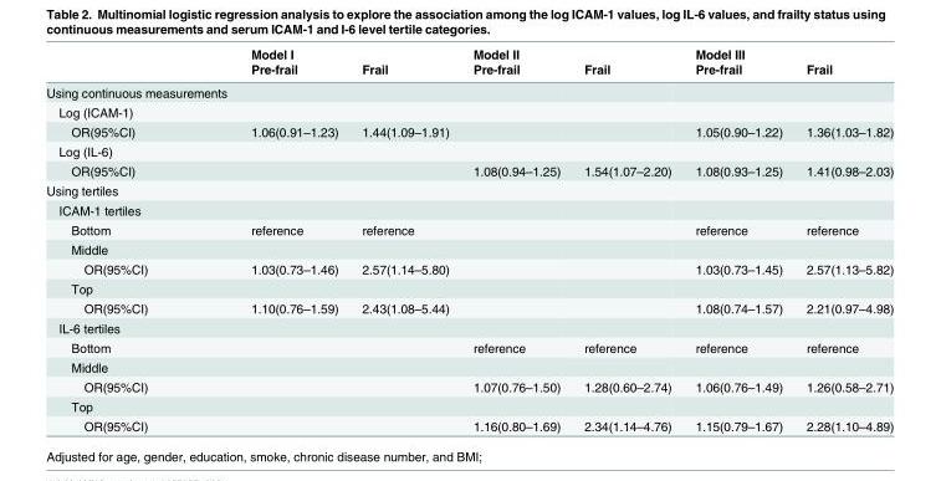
<table><thead><tr><td rowspan="2"></td><td rowspan="2">Model I Pre-frail</td><td rowspan="2">Frail</td><td rowspan="2">Model II Pre-frail</td><td rowspan="2">Frail</td><td rowspan="2">Model III Pre-frail</td><td rowspan="2">Frail</td></tr><tr></tr></thead><tbody><tr><td colspan="7">Using continuous measurements</td></tr><tr><td colspan="7">Log (ICAM-1)</td></tr><tr><td>OR(95%CI)</td><td>1.06(0.91–1.23)</td><td>1.44(1.09–1.91)</td><td></td><td></td><td>1.05(0.90–1.22)</td><td>1.36(1.03–1.82)</td></tr><tr><td colspan="7">Log (IL-6)</td></tr><tr><td>OR(95%CI)</td><td></td><td></td><td>1.08(0.94–1.25)</td><td>1.54(1.07–2.20)</td><td>1.08(0.93–1.25)</td><td>1.41(0.98–2.03)</td></tr><tr><td colspan="7">Using tertiles</td></tr><tr><td colspan="7">ICAM-1 tertiles</td></tr><tr><td>Bottom</td><td>reference</td><td>reference</td><td></td><td></td><td>reference</td><td>reference</td></tr><tr><td colspan="7">Middle</td></tr><tr><td>OR(95%CI)</td><td>1.03(0.73–1.46)</td><td>2.57(1.14–5.80)</td><td></td><td></td><td>1.03(0.73–1.45)</td><td>2.57(1.13–5.82)</td></tr><tr><td colspan="7">Top</td></tr><tr><td>OR(95%CI)</td><td>1.10(0.76–1.59)</td><td>2.43(1.08–5.44)</td><td></td><td></td><td>1.08(0.74–1.57)</td><td>2.21(0.97–4.98)</td></tr><tr><td colspan="7">IL-6 tertiles</td></tr><tr><td>Bottom</td><td></td><td></td><td>reference</td><td>reference</td><td>reference</td><td>reference</td></tr><tr><td colspan="7">Middle</td></tr><tr><td>OR(95%CI)</td><td></td><td></td><td>1.07(0.76–1.50)</td><td>1.28(0.60–2.74)</td><td>1.06(0.76–1.49)</td><td>1.26(0.58–2.71)</td></tr><tr><td colspan="7">Top</td></tr><tr><td>OR(95%CI)</td><td></td><td></td><td>1.16(0.80–1.69)</td><td>2.34(1.14–4.76)</td><td>1.15(0.79–1.67)</td><td>2.28(1.10–4.89)</td></tr></tbody></table>